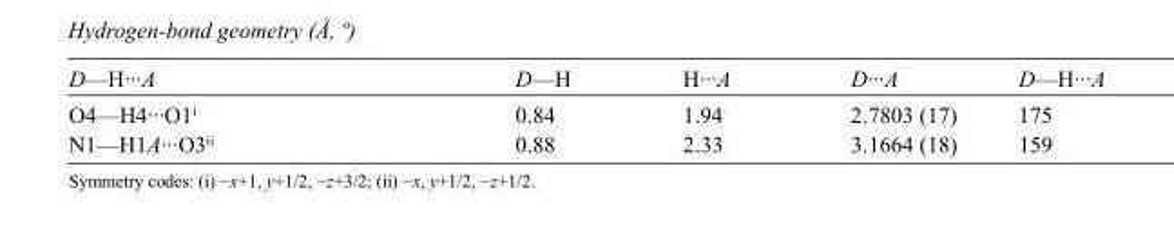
<table><tbody><tr><td>D—H···A</td><td>D—H</td><td>H···A</td><td>D···A</td><td>D—H···A</td></tr><tr><td>O4—H4···O1<sup>i</sup></td><td>0.84</td><td>1.94</td><td>2.7803 (17)</td><td>175</td></tr><tr><td>N1—H1A···O3<sup>ii</sup></td><td>0.88</td><td>2.33</td><td>3.1664 (18)</td><td>159</td></tr></tbody></table>